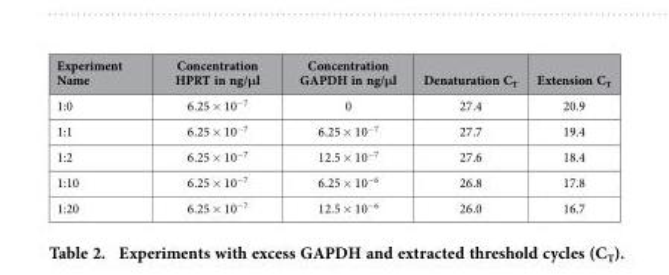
<table><thead><tr><td>Experiment Name</td><td>Concentration HPRT in ng/μl</td><td>Concentration GAPDH in ng/μl</td><td>Denaturation C<sub>T</sub></td><td>Extension C<sub>T</sub></td></tr></thead><tbody><tr><td>1:0</td><td>6.25 × 10<sup>−7</sup></td><td>0</td><td>27.4</td><td>20.9</td></tr><tr><td>1:1</td><td>6.25 × 10<sup>−7</sup></td><td>6.25 × 10<sup>−7</sup></td><td>27.7</td><td>19.4</td></tr><tr><td>1:2</td><td>6.25 × 10<sup>−7</sup></td><td>12.5 × 10<sup>−7</sup></td><td>27.6</td><td>18.4</td></tr><tr><td>1:10</td><td>6.25 × 10<sup>−7</sup></td><td>6.25 × 10<sup>−6</sup></td><td>26.8</td><td>17.8</td></tr><tr><td>1:20</td><td>6.25 × 10<sup>−7</sup></td><td>12.5 × 10<sup>−6</sup></td><td>26.0</td><td>16.7</td></tr></tbody></table>